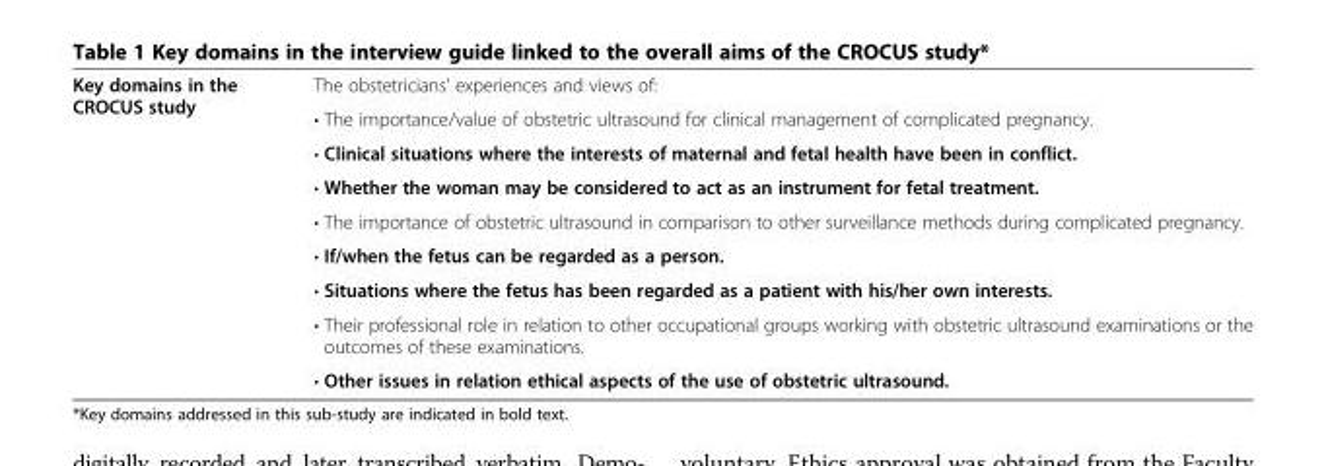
<table><tbody><tr><td rowspan="9">Key domains in the CROCUS study</td><td>The obstetricians’ experiences and views of:</td></tr><tr><td>• The importance/value of obstetric ultrasound for clinical management of complicated pregnancy.</td></tr><tr><td>• Clinical situations where the interests of maternal and fetal health have been in conflict.</td></tr><tr><td>• Whether the woman may be considered to act as an instrument for fetal treatment.</td></tr><tr><td>• The importance of obstetric ultrasound in comparison to other surveillance methods during complicated pregnancy.</td></tr><tr><td>• If/when the fetus can be regarded as a person.</td></tr><tr><td>• Situations where the fetus has been regarded as a patient with his/her own interests.</td></tr><tr><td>• Their professional role in relation to other occupational groups working with obstetric ultrasound examinations or the outcomes of these examinations.</td></tr><tr><td>• Other issues in relation ethical aspects of the use of obstetric ultrasound.</td></tr></tbody></table>